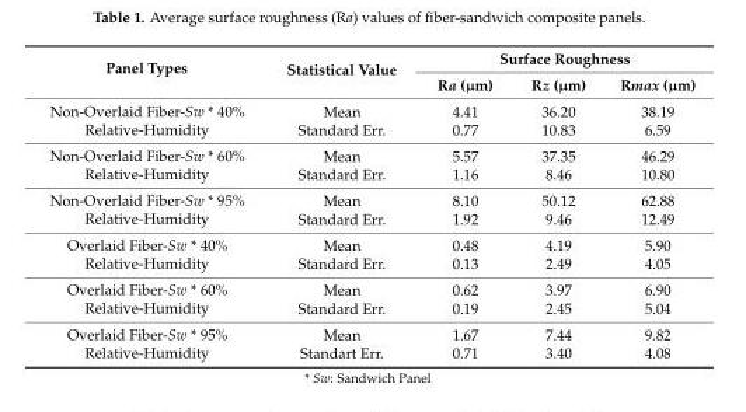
<table><thead><tr><td rowspan="2">Panel Types</td><td rowspan="2">Statistical Value</td><td colspan="3">Surface Roughness</td></tr><tr><td>Ra (µm)</td><td>Rz (µm)</td><td>Rmax (µm)</td></tr></thead><tbody><tr><td rowspan="2">Non-Overlaid Fiber-Sw * 40% Relative-Humidity</td><td>Mean</td><td>4.41</td><td>36.20</td><td>38.19</td></tr><tr><td>Standard Err.</td><td>0.77</td><td>10.83</td><td>6.59</td></tr><tr><td rowspan="2">Non-Overlaid Fiber-Sw * 60% Relative-Humidity</td><td>Mean</td><td>5.57</td><td>37.35</td><td>46.29</td></tr><tr><td>Standard Err.</td><td>1.16</td><td>8.46</td><td>10.80</td></tr><tr><td rowspan="2">Non-Overlaid Fiber-Sw * 95% Relative-Humidity</td><td>Mean</td><td>8.10</td><td>50.12</td><td>62.88</td></tr><tr><td>Standard Err.</td><td>1.92</td><td>9.46</td><td>12.49</td></tr><tr><td rowspan="2">Overlaid Fiber-Sw * 40% Relative-Humidity</td><td>Mean</td><td>0.48</td><td>4.19</td><td>5.90</td></tr><tr><td>Standard Err.</td><td>0.13</td><td>2.49</td><td>4.05</td></tr><tr><td rowspan="2">Overlaid Fiber-Sw * 60% Relative-Humidity</td><td>Mean</td><td>0.62</td><td>3.97</td><td>6.90</td></tr><tr><td>Standard Err.</td><td>0.19</td><td>2.45</td><td>5.04</td></tr><tr><td rowspan="2">Overlaid Fiber-Sw * 95% Relative-Humidity</td><td>Mean</td><td>1.67</td><td>7.44</td><td>9.82</td></tr><tr><td>Standart Err.</td><td>0.71</td><td>3.40</td><td>4.08</td></tr></tbody></table>